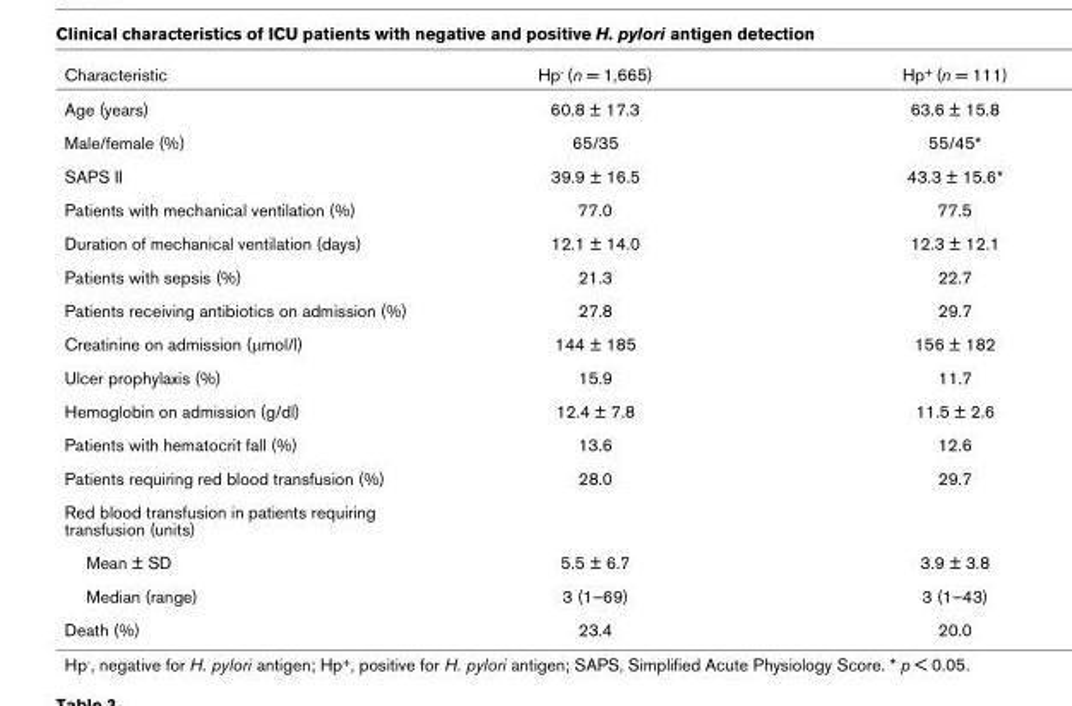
<table><thead><tr><td>Characteristic</td><td>Hp- (n = 1,665)</td><td>Hp+ (n = 111)</td></tr></thead><tbody><tr><td>Age (years)</td><td>60.8 ± 17.3</td><td>63.6 ± 15.8</td></tr><tr><td>Male/female (%)</td><td>65/35</td><td>55/45*</td></tr><tr><td>SAPS II</td><td>39.9 ± 16.5</td><td>43.3 ± 15.6*</td></tr><tr><td>Patients with mechanical ventilation (%)</td><td>77.0</td><td>77.5</td></tr><tr><td>Duration of mechanical ventilation (days)</td><td>12.1 ± 14.0</td><td>12.3 ± 12.1</td></tr><tr><td>Patients with sepsis (%)</td><td>21.3</td><td>22.7</td></tr><tr><td>Patients receiving antibiotics on admission (%)</td><td>27.8</td><td>29.7</td></tr><tr><td>Creatinine on admission (µmol/l)</td><td>144 ± 185</td><td>156 ± 182</td></tr><tr><td>Ulcer prophylaxis (%)</td><td>15.9</td><td>11.7</td></tr><tr><td>Hemoglobin on admission (g/dl)</td><td>12.4 ± 7.8</td><td>11.5 ± 2.6</td></tr><tr><td>Patients with hematocrit fall (%)</td><td>13.6</td><td>12.6</td></tr><tr><td>Patients requiring red blood transfusion (%)</td><td>28.0</td><td>29.7</td></tr><tr><td colspan="3">Red blood transfusion in patients requiring transfusion (units)</td></tr><tr><td>Mean ± SD</td><td>5.5 ± 6.7</td><td>3.9 ± 3.8</td></tr><tr><td>Median (range)</td><td>3 (1–69)</td><td>3 (1–43)</td></tr><tr><td>Death (%)</td><td>23.4</td><td>20.0</td></tr></tbody></table>